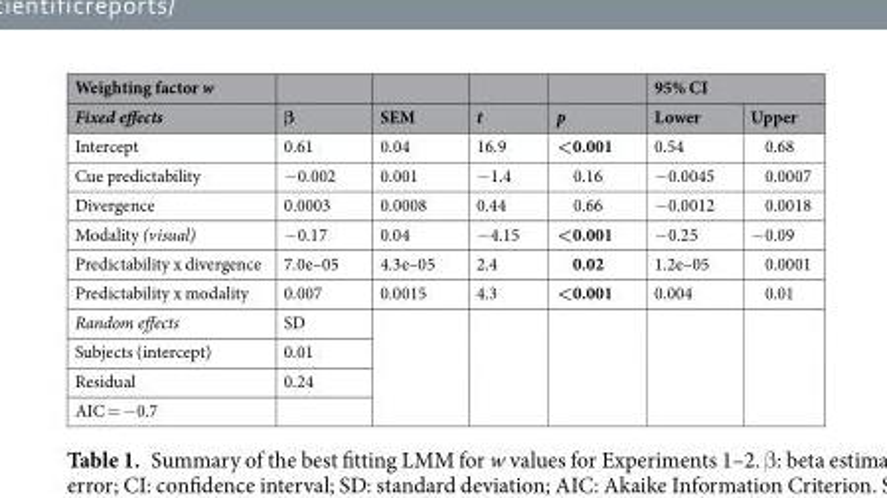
<table><thead><tr><td rowspan="2">Weighting factor w Fixed effects</td><td rowspan="2">β</td><td rowspan="2">SEM</td><td rowspan="2">t</td><td rowspan="2">p</td><td colspan="2">95% CI</td></tr><tr><td>Lower</td><td>Upper</td></tr></thead><tbody><tr><td>Intercept</td><td>0.61</td><td>0.04</td><td>16.9</td><td>&lt;0.001</td><td>0.54</td><td>0.68</td></tr><tr><td>Cue predictability</td><td>−0.002</td><td>0.001</td><td>−1.4</td><td>0.16</td><td>−0.0045</td><td>0.0007</td></tr><tr><td>Divergence</td><td>0.0003</td><td>0.0008</td><td>0.44</td><td>0.66</td><td>−0.0012</td><td>0.0018</td></tr><tr><td>Modality (visual)</td><td>−0.17</td><td>0.04</td><td>−4.15</td><td>&lt;0.001</td><td>−0.25</td><td>−0.09</td></tr><tr><td>Predictability x divergence</td><td>7.0e–05</td><td>4.3e–05</td><td>2.4</td><td>0.02</td><td>1.2e–05</td><td>0.0001</td></tr><tr><td>Predictability x modality</td><td>0.007</td><td>0.0015</td><td>4.3</td><td>&lt;0.001</td><td>0.004</td><td>0.01</td></tr><tr><td>Random effects</td><td>SD</td><td rowspan="4"></td><td rowspan="4"></td><td rowspan="4"></td><td rowspan="4"></td><td rowspan="4"></td></tr><tr><td>Subjects (intercept)</td><td>0.01</td></tr><tr><td>Residual</td><td>0.24</td></tr><tr><td>AIC = −0.7</td><td></td></tr></tbody></table>